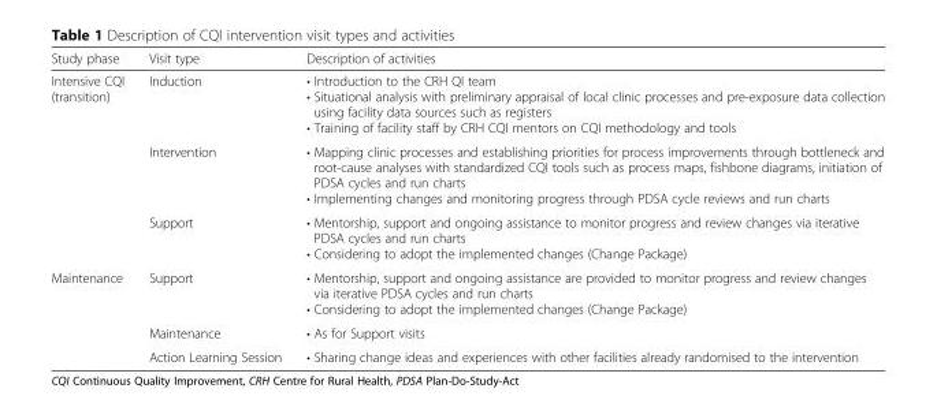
<table><thead><tr><td>Study phase</td><td>Visit type</td><td>Description of activities</td></tr></thead><tbody><tr><td rowspan="3">Intensive CQI (transition)</td><td>Induction</td><td>• Introduction to the CRH QI team • Situational analysis with preliminary appraisal of local clinic processes and pre-exposure data collection using facility data sources such as registers • Training of facility staff by CRH CQI mentors on CQI methodology and tools</td></tr><tr><td>Intervention</td><td>• Mapping clinic processes and establishing priorities for process improvements through bottleneck and root-cause analyses with standardized CQI tools such as process maps, fishbone diagrams, initiation of PDSA cycles and run charts • Implementing changes and monitoring progress through PDSA cycle reviews and run charts</td></tr><tr><td>Support</td><td>• Mentorship, support and ongoing assistance to monitor progress and review changes via iterative PDSA cycles and run charts • Considering to adopt the implemented changes (Change Package)</td></tr><tr><td rowspan="3">Maintenance</td><td>Support</td><td>• Mentorship, support and ongoing assistance are provided to monitor progress and review changes via iterative PDSA cycles and run charts • Considering to adopt the implemented changes (Change Package)</td></tr><tr><td>Maintenance</td><td>• As for Support visits</td></tr><tr><td>Action Learning Session</td><td>• Sharing change ideas and experiences with other facilities already randomised to the intervention</td></tr></tbody></table>